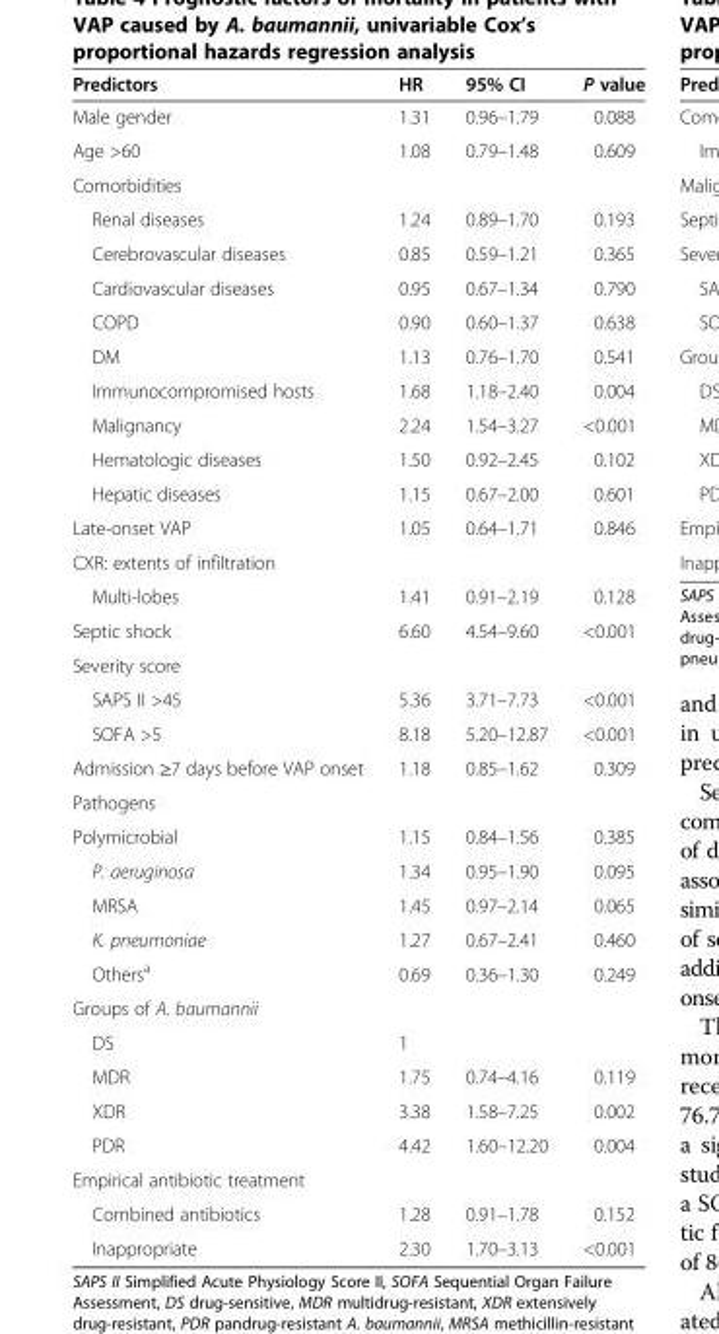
<table><thead><tr><td>Predictors</td><td>HR</td><td>95% CI</td><td>P value</td></tr></thead><tbody><tr><td>Male gender</td><td>1.31</td><td>0.96–1.79</td><td>0.088</td></tr><tr><td>Age &gt;60</td><td>1.08</td><td>0.79–1.48</td><td>0.609</td></tr><tr><td colspan="4">Comorbidities</td></tr><tr><td>Renal diseases</td><td>1.24</td><td>0.89–1.70</td><td>0.193</td></tr><tr><td>Cerebrovascular diseases</td><td>0.85</td><td>0.59–1.21</td><td>0.365</td></tr><tr><td>Cardiovascular diseases</td><td>0.95</td><td>0.67–1.34</td><td>0.790</td></tr><tr><td>COPD</td><td>0.90</td><td>0.60–1.37</td><td>0.638</td></tr><tr><td>DM</td><td>1.13</td><td>0.76–1.70</td><td>0.541</td></tr><tr><td>Immunocompromised hosts</td><td>1.68</td><td>1.18–2.40</td><td>0.004</td></tr><tr><td>Malignancy</td><td>2.24</td><td>1.54–3.27</td><td>&lt;0.001</td></tr><tr><td>Hematologic diseases</td><td>1.50</td><td>0.92–2.45</td><td>0.102</td></tr><tr><td>Hepatic diseases</td><td>1.15</td><td>0.67–2.00</td><td>0.601</td></tr><tr><td>Late-onset VAP</td><td>1.05</td><td>0.64–1.71</td><td>0.846</td></tr><tr><td colspan="4">CXR: extents of infiltration</td></tr><tr><td>Multi-lobes</td><td>1.41</td><td>0.91–2.19</td><td>0.128</td></tr><tr><td>Septic shock</td><td>6.60</td><td>4.54–9.60</td><td>&lt;0.001</td></tr><tr><td colspan="4">Severity score</td></tr><tr><td>SAPS II &gt;45</td><td>5.36</td><td>3.71–7.73</td><td>&lt;0.001</td></tr><tr><td>SOFA &gt;5</td><td>8.18</td><td>5.20–12.87</td><td>&lt;0.001</td></tr><tr><td>Admission ≥7 days before VAP onset</td><td>1.18</td><td>0.85–1.62</td><td>0.309</td></tr><tr><td colspan="4">Pathogens</td></tr><tr><td>Polymicrobial</td><td>1.15</td><td>0.84–1.56</td><td>0.385</td></tr><tr><td>P. aeruginosa</td><td>1.34</td><td>0.95–1.90</td><td>0.095</td></tr><tr><td>MRSA</td><td>1.45</td><td>0.97–2.14</td><td>0.065</td></tr><tr><td>K. pneumoniae</td><td>1.27</td><td>0.67–2.41</td><td>0.460</td></tr><tr><td>Others<sup>a</sup></td><td>0.69</td><td>0.36–1.30</td><td>0.249</td></tr><tr><td colspan="4">Groups of A. baumannii</td></tr><tr><td>DS</td><td>1</td><td></td><td></td></tr><tr><td>MDR</td><td>1.75</td><td>0.74–4.16</td><td>0.119</td></tr><tr><td>XDR</td><td>3.38</td><td>1.58–7.25</td><td>0.002</td></tr><tr><td>PDR</td><td>4.42</td><td>1.60–12.20</td><td>0.004</td></tr><tr><td colspan="4">Empirical antibiotic treatment</td></tr><tr><td>Combined antibiotics</td><td>1.28</td><td>0.91–1.78</td><td>0.152</td></tr><tr><td>Inappropriate</td><td>2.30</td><td>1.70–3.13</td><td>&lt;0.001</td></tr></tbody></table>